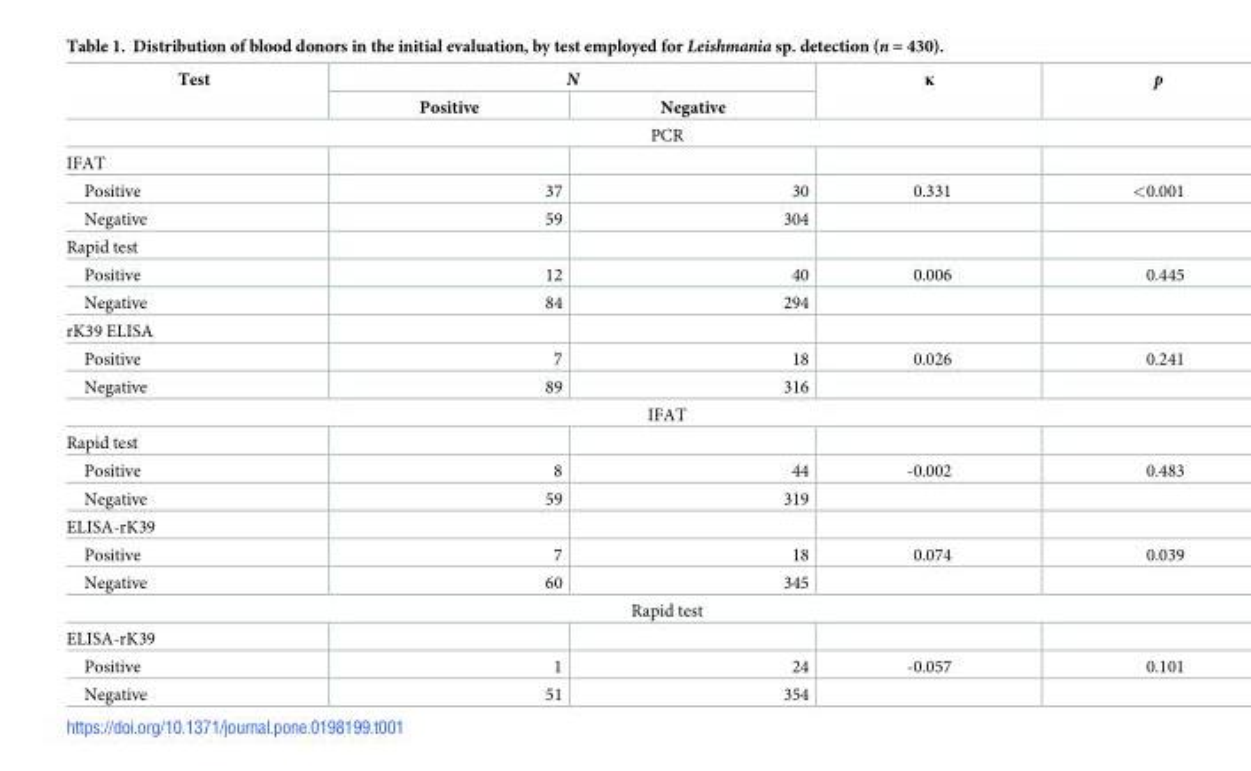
<table><thead><tr><td rowspan="2">Test</td><td colspan="2">N</td><td rowspan="2">κ</td><td rowspan="2">p</td></tr><tr><td>Positive</td><td>Negative</td></tr></thead><tbody><tr><td colspan="5">PCR</td></tr><tr><td colspan="5">IFAT</td></tr><tr><td>Positive</td><td>37</td><td>30</td><td>0.331</td><td>&lt;0.001</td></tr><tr><td>Negative</td><td>59</td><td>304</td><td></td><td></td></tr><tr><td colspan="5">Rapid test</td></tr><tr><td>Positive</td><td>12</td><td>40</td><td>0.006</td><td>0.445</td></tr><tr><td>Negative</td><td>84</td><td>294</td><td></td><td></td></tr><tr><td colspan="5">rK39 ELISA</td></tr><tr><td>Positive</td><td>7</td><td>18</td><td>0.026</td><td>0.241</td></tr><tr><td>Negative</td><td>89</td><td>316</td><td></td><td></td></tr><tr><td colspan="5">IFAT</td></tr><tr><td colspan="5">Rapid test</td></tr><tr><td>Positive</td><td>8</td><td>44</td><td>-0.002</td><td>0.483</td></tr><tr><td>Negative</td><td>59</td><td>319</td><td></td><td></td></tr><tr><td colspan="5">ELISA-rK39</td></tr><tr><td>Positive</td><td>7</td><td>18</td><td>0.074</td><td>0.039</td></tr><tr><td>Negative</td><td>60</td><td>345</td><td></td><td></td></tr><tr><td colspan="5">Rapid test</td></tr><tr><td colspan="5">ELISA-rK39</td></tr><tr><td>Positive</td><td>1</td><td>24</td><td>-0.057</td><td>0.101</td></tr><tr><td>Negative</td><td>51</td><td>354</td><td></td><td></td></tr></tbody></table>